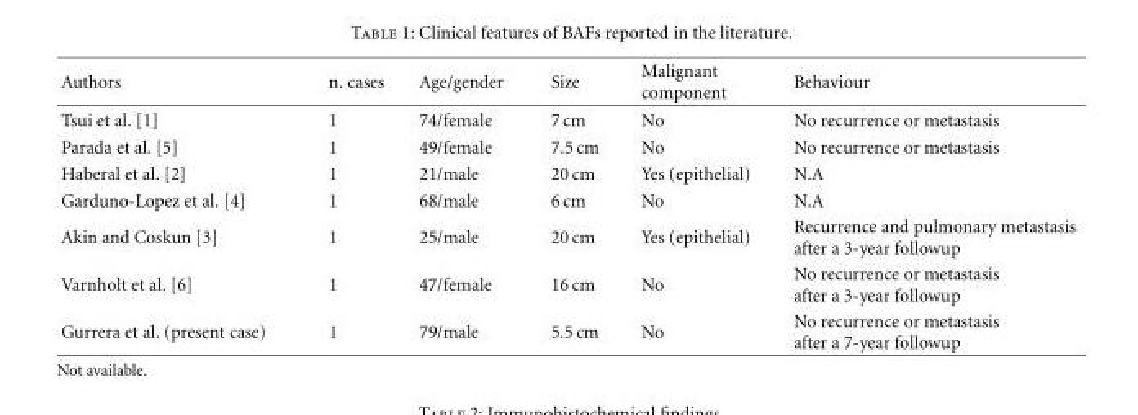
<table><thead><tr><td>Authors</td><td>n. cases</td><td>Age/gender</td><td>Size</td><td>Malignant component</td><td>Behaviour</td></tr></thead><tbody><tr><td>Tsui et al. [1]</td><td>1</td><td>74/female</td><td>7 cm</td><td>No</td><td>No recurrence or metastasis</td></tr><tr><td>Parada et al. [5]</td><td>1</td><td>49/female</td><td>7.5 cm</td><td>No</td><td>No recurrence or metastasis</td></tr><tr><td>Haberal et al. [2]</td><td>1</td><td>21/male</td><td>20 cm</td><td>Yes (epithelial)</td><td>N.A</td></tr><tr><td>Garduno-Lopez et al. [4]</td><td>1</td><td>68/male</td><td>6 cm</td><td>No</td><td>N.A</td></tr><tr><td>Akin and Coskun [3]</td><td>1</td><td>25/male</td><td>20 cm</td><td>Yes (epithelial)</td><td>Recurrence and pulmonary metastasis after a 3-year followup</td></tr><tr><td>Varnholt et al. [6]</td><td>1</td><td>47/female</td><td>16 cm</td><td>No</td><td>No recurrence or metastasis after a 3-year followup</td></tr><tr><td>Gurrera et al. (present case)</td><td>1</td><td>79/male</td><td>5.5 cm</td><td>No</td><td>No recurrence or metastasis after a 7-year followup</td></tr></tbody></table>